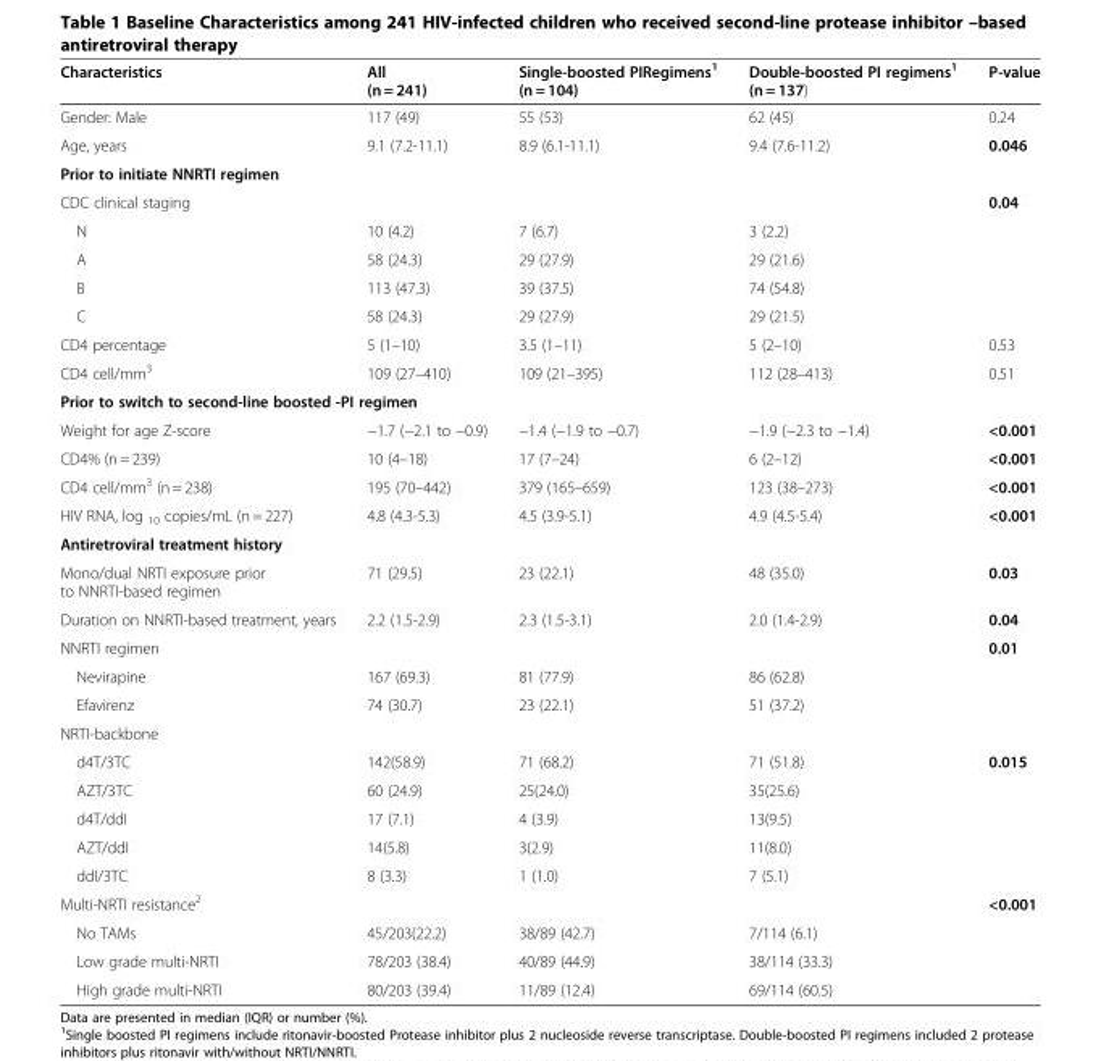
<table><thead><tr><td>Characteristics</td><td>All (n = 241)</td><td>Single-boosted PIRegimens<sup>1</sup> (n = 104)</td><td>Double-boosted PI regimens<sup>1</sup> (n = 137)</td><td>P-value</td></tr></thead><tbody><tr><td>Gender: Male</td><td>117 (49)</td><td>55 (53)</td><td>62 (45)</td><td>0.24</td></tr><tr><td>Age, years</td><td>9.1 (7.2-11.1)</td><td>8.9 (6.1-11.1)</td><td>9.4 (7.6-11.2)</td><td>0.046</td></tr><tr><td colspan="5">Prior to initiate NNRTI regimen</td></tr><tr><td>CDC clinical staging</td><td></td><td></td><td></td><td>0.04</td></tr><tr><td>N</td><td>10 (4.2)</td><td>7 (6.7)</td><td>3 (2.2)</td><td></td></tr><tr><td>A</td><td>58 (24.3)</td><td>29 (27.9)</td><td>29 (21.6)</td><td></td></tr><tr><td>B</td><td>113 (47.3)</td><td>39 (37.5)</td><td>74 (54.8)</td><td></td></tr><tr><td>C</td><td>58 (24.3)</td><td>29 (27.9)</td><td>29 (21.5)</td><td></td></tr><tr><td>CD4 percentage</td><td>5 (1–10)</td><td>3.5 (1–11)</td><td>5 (2–10)</td><td>0.53</td></tr><tr><td>CD4 cell/mm<sup>3</sup></td><td>109 (27–410)</td><td>109 (21–395)</td><td>112 (28–413)</td><td>0.51</td></tr><tr><td colspan="5">Prior to switch to second-line boosted -PI regimen</td></tr><tr><td>Weight for age Z-score</td><td>−1.7 (−2.1 to −0.9)</td><td>−1.4 (−1.9 to −0.7)</td><td>−1.9 (−2.3 to −1.4)</td><td>&lt;0.001</td></tr><tr><td>CD4% (n = 239)</td><td>10 (4–18)</td><td>17 (7–24)</td><td>6 (2–12)</td><td>&lt;0.001</td></tr><tr><td>CD4 cell/mm<sup>3</sup> (n = 238)</td><td>195 (70–442)</td><td>379 (165–659)</td><td>123 (38–273)</td><td>&lt;0.001</td></tr><tr><td>HIV RNA, log <sub>10</sub> copies/mL (n = 227)</td><td>4.8 (4.3-5.3)</td><td>4.5 (3.9-5.1)</td><td>4.9 (4.5-5.4)</td><td>&lt;0.001</td></tr><tr><td colspan="5">Antiretroviral treatment history</td></tr><tr><td>Mono/dual NRTI exposure prior to NNRTI-based regimen</td><td>71 (29.5)</td><td>23 (22.1)</td><td>48 (35.0)</td><td>0.03</td></tr><tr><td>Duration on NNRTI-based treatment, years</td><td>2.2 (1.5-2.9)</td><td>2.3 (1.5-3.1)</td><td>2.0 (1.4-2.9)</td><td>0.04</td></tr><tr><td>NNRTI regimen</td><td></td><td></td><td></td><td>0.01</td></tr><tr><td>Nevirapine</td><td>167 (69.3)</td><td>81 (77.9)</td><td>86 (62.8)</td><td></td></tr><tr><td>Efavirenz</td><td>74 (30.7)</td><td>23 (22.1)</td><td>51 (37.2)</td><td></td></tr><tr><td colspan="5">NRTI-backbone</td></tr><tr><td>d4T/3TC</td><td>142(58.9)</td><td>71 (68.2)</td><td>71 (51.8)</td><td>0.015</td></tr><tr><td>AZT/3TC</td><td>60 (24.9)</td><td>25(24.0)</td><td>35(25.6)</td><td></td></tr><tr><td>d4T/ddI</td><td>17 (7.1)</td><td>4 (3.9)</td><td>13(9.5)</td><td></td></tr><tr><td>AZT/ddI</td><td>14(5.8)</td><td>3(2.9)</td><td>11(8.0)</td><td></td></tr><tr><td>ddI/3TC</td><td>8 (3.3)</td><td>1 (1.0)</td><td>7 (5.1)</td><td></td></tr><tr><td>Multi-NRTI resistance<sup>2</sup></td><td></td><td></td><td></td><td>&lt;0.001</td></tr><tr><td>No TAMs</td><td>45/203(22.2)</td><td>38/89 (42.7)</td><td>7/114 (6.1)</td><td></td></tr><tr><td>Low grade multi-NRTI</td><td>78/203 (38.4)</td><td>40/89 (44.9)</td><td>38/114 (33.3)</td><td></td></tr><tr><td>High grade multi-NRTI</td><td>80/203 (39.4)</td><td>11/89 (12.4)</td><td>69/114 (60.5)</td><td></td></tr></tbody></table>